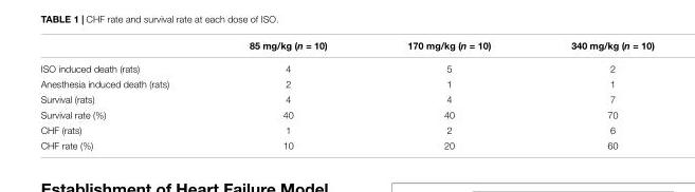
<table><thead><tr><td></td><td>85 mg/kg (n = 10)</td><td>170 mg/kg (n = 10)</td><td>340 mg/kg (n = 10)</td></tr></thead><tbody><tr><td>ISO induced death (rats)</td><td>4</td><td>5</td><td>2</td></tr><tr><td>Anesthesia induced death (rats)</td><td>2</td><td>1</td><td>1</td></tr><tr><td>Survival (rats)</td><td>4</td><td>4</td><td>7</td></tr><tr><td>Survival rate (%)</td><td>40</td><td>40</td><td>70</td></tr><tr><td>CHF (rats)</td><td>1</td><td>2</td><td>6</td></tr><tr><td>CHF rate (%)</td><td>10</td><td>20</td><td>60</td></tr></tbody></table>